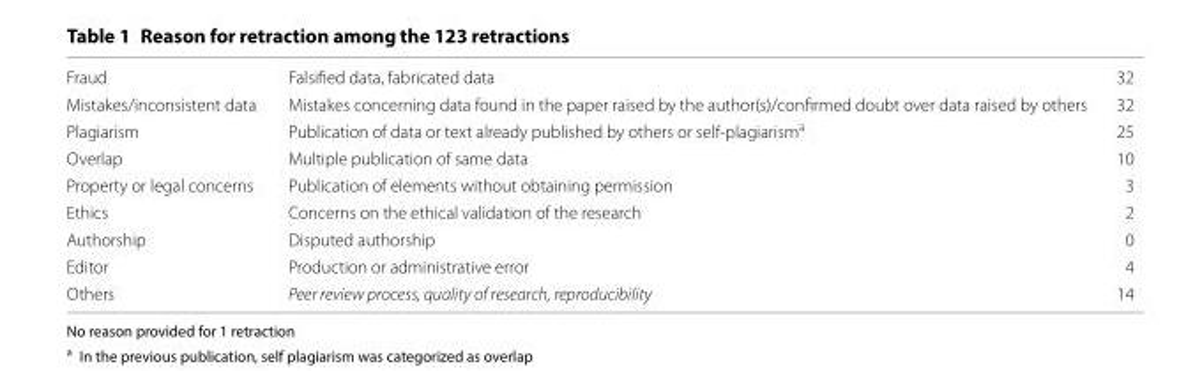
<table><tbody><tr><td>Fraud</td><td>Falsified data, fabricated data</td><td>32</td></tr><tr><td>Mistakes/inconsistent data</td><td>Mistakes concerning data found in the paper raised by the author(s)/confirmed doubt over data raised by others</td><td>32</td></tr><tr><td>Plagiarism</td><td>Publication of data or text already published by others or self‑plagiarism<sup>a</sup></td><td>25</td></tr><tr><td>Overlap</td><td>Multiple publication of same data</td><td>10</td></tr><tr><td>Property or legal concerns</td><td>Publication of elements without obtaining permission</td><td>3</td></tr><tr><td>Ethics</td><td>Concerns on the ethical validation of the research</td><td>2</td></tr><tr><td>Authorship</td><td>Disputed authorship</td><td>0</td></tr><tr><td>Editor</td><td>Production or administrative error</td><td>4</td></tr><tr><td>Others</td><td>Peer review process, quality of research, reproducibility</td><td>14</td></tr></tbody></table>